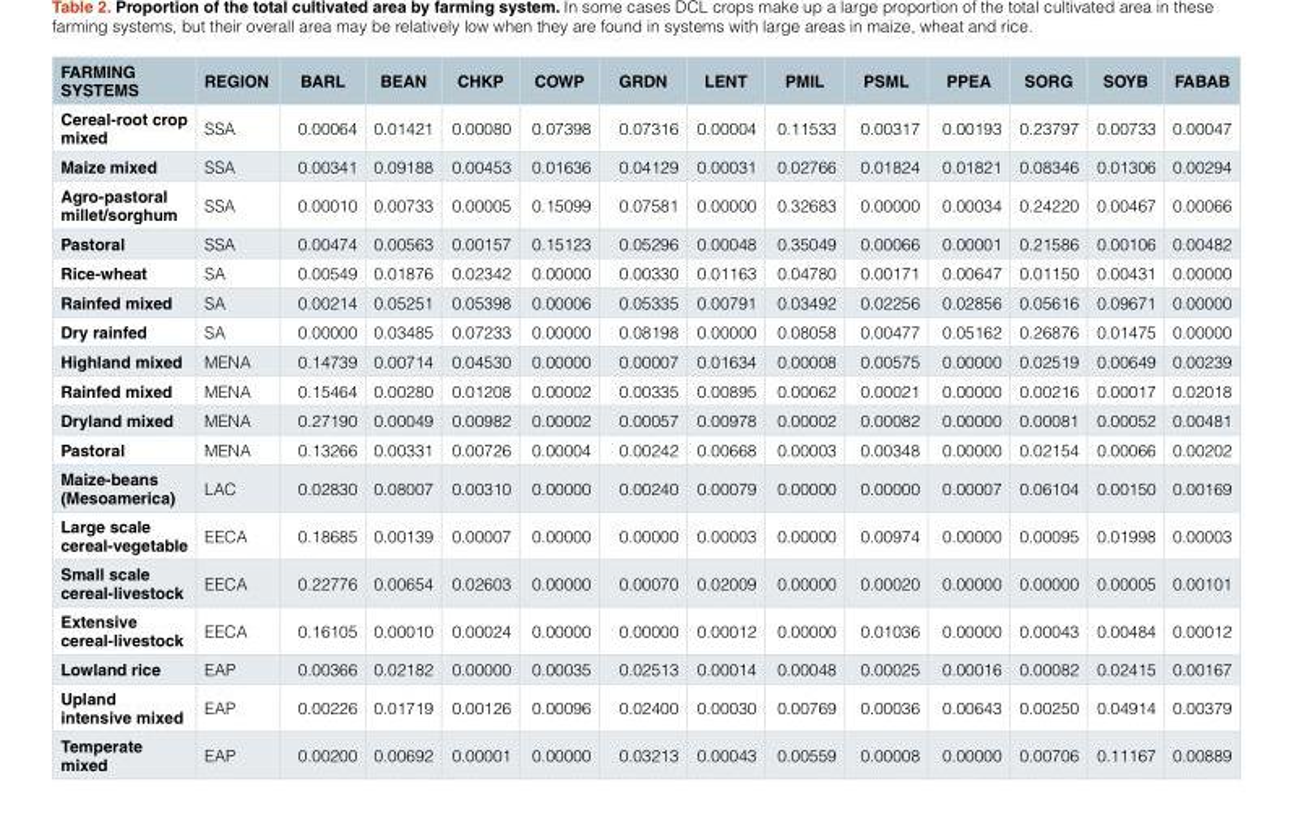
<table><thead><tr><td>FARMING SYSTEMS</td><td>REGION</td><td>BARL</td><td>BEAN</td><td>CHKP</td><td>COWP</td><td>GRDN</td><td>LENT</td><td>PMIL</td><td>PSML</td><td>PPEA</td><td>SORG</td><td>SOYB</td><td>FABAB</td></tr></thead><tbody><tr><td>Cereal-root crop mixed</td><td>SSA</td><td>0.00064</td><td>0.01421</td><td>0.00080</td><td>0.07398</td><td>0.07316</td><td>0.00004</td><td>0.11533</td><td>0.00317</td><td>0.00193</td><td>0.23797</td><td>0.00733</td><td>0.00047</td></tr><tr><td>Maize mixed</td><td>SSA</td><td>0.00341</td><td>0.09188</td><td>0.00453</td><td>0.01636</td><td>0.04129</td><td>0.00031</td><td>0.02766</td><td>0.01824</td><td>0.01821</td><td>0.08346</td><td>0.01306</td><td>0.00294</td></tr><tr><td>Agro-pastoral millet/sorghum</td><td>SSA</td><td>0.00010</td><td>0.00733</td><td>0.00005</td><td>0.15099</td><td>0.07581</td><td>0.00000</td><td>0.32683</td><td>0.00000</td><td>0.00034</td><td>0.24220</td><td>0.00467</td><td>0.00066</td></tr><tr><td>Pastoral</td><td>SSA</td><td>0.00474</td><td>0.00563</td><td>0.00157</td><td>0.15123</td><td>0.05296</td><td>0.00048</td><td>0.35049</td><td>0.00066</td><td>0.00001</td><td>0.21586</td><td>0.00106</td><td>0.00482</td></tr><tr><td>Rice-wheat</td><td>SA</td><td>0.00549</td><td>0.01876</td><td>0.02342</td><td>0.00000</td><td>0.00330</td><td>0.01163</td><td>0.04780</td><td>0.00171</td><td>0.00647</td><td>0.01150</td><td>0.00431</td><td>0.00000</td></tr><tr><td>Rainfed mixed</td><td>SA</td><td>0.00214</td><td>0.05251</td><td>0.05398</td><td>0.00006</td><td>0.05335</td><td>0.00791</td><td>0.03492</td><td>0.02256</td><td>0.02856</td><td>0.05616</td><td>0.09671</td><td>0.00000</td></tr><tr><td>Dry rainfed</td><td>SA</td><td>0.00000</td><td>0.03485</td><td>0.07233</td><td>0.00000</td><td>0.08198</td><td>0.00000</td><td>0.08058</td><td>0.00477</td><td>0.05162</td><td>0.26876</td><td>0.01475</td><td>0.00000</td></tr><tr><td>Highland mixed</td><td>MENA</td><td>0.14739</td><td>0.00714</td><td>0.04530</td><td>0.00000</td><td>0.00007</td><td>0.01634</td><td>0.00008</td><td>0.00575</td><td>0.00000</td><td>0.02519</td><td>0.00649</td><td>0.00239</td></tr><tr><td>Rainfed mixed</td><td>MENA</td><td>0.15464</td><td>0.00280</td><td>0.01208</td><td>0.00002</td><td>0.00335</td><td>0.00895</td><td>0.00062</td><td>0.00021</td><td>0.00000</td><td>0.00216</td><td>0.00017</td><td>0.02018</td></tr><tr><td>Dryland mixed</td><td>MENA</td><td>0.27190</td><td>0.00049</td><td>0.00982</td><td>0.00002</td><td>0.00057</td><td>0.00978</td><td>0.00002</td><td>0.00082</td><td>0.00000</td><td>0.00081</td><td>0.00052</td><td>0.00481</td></tr><tr><td>Pastoral</td><td>MENA</td><td>0.13266</td><td>0.00331</td><td>0.00726</td><td>0.00004</td><td>0.00242</td><td>0.00668</td><td>0.00003</td><td>0.00348</td><td>0.00000</td><td>0.02154</td><td>0.00066</td><td>0.00202</td></tr><tr><td>Maize-beans (Mesoamerica)</td><td>LAC</td><td>0.02830</td><td>0.08007</td><td>0.00310</td><td>0.00000</td><td>0.00240</td><td>0.00079</td><td>0.00000</td><td>0.00000</td><td>0.00007</td><td>0.06104</td><td>0.00150</td><td>0.00169</td></tr><tr><td>Large scale cereal-vegetable</td><td>EECA</td><td>0.18685</td><td>0.00139</td><td>0.00007</td><td>0.00000</td><td>0.00000</td><td>0.00003</td><td>0.00000</td><td>0.00974</td><td>0.00000</td><td>0.00095</td><td>0.01998</td><td>0.00003</td></tr><tr><td>Small scale cereal-livestock</td><td>EECA</td><td>0.22776</td><td>0.00654</td><td>0.02603</td><td>0.00000</td><td>0.00070</td><td>0.02009</td><td>0.00000</td><td>0.00020</td><td>0.00000</td><td>0.00000</td><td>0.00005</td><td>0.00101</td></tr><tr><td>Extensive cereal-livestock</td><td>EECA</td><td>0.16105</td><td>0.00010</td><td>0.00024</td><td>0.00000</td><td>0.00000</td><td>0.00012</td><td>0.00000</td><td>0.01036</td><td>0.00000</td><td>0.00043</td><td>0.00484</td><td>0.00012</td></tr><tr><td>Lowland rice</td><td>EAP</td><td>0.00366</td><td>0.02182</td><td>0.00000</td><td>0.00035</td><td>0.02513</td><td>0.00014</td><td>0.00048</td><td>0.00025</td><td>0.00016</td><td>0.00082</td><td>0.02415</td><td>0.00167</td></tr><tr><td>Upland intensive mixed</td><td>EAP</td><td>0.00226</td><td>0.01719</td><td>0.00126</td><td>0.00096</td><td>0.02400</td><td>0.00030</td><td>0.00769</td><td>0.00036</td><td>0.00643</td><td>0.00250</td><td>0.04914</td><td>0.00379</td></tr><tr><td>Temperate mixed</td><td>EAP</td><td>0.00200</td><td>0.00692</td><td>0.00001</td><td>0.00000</td><td>0.03213</td><td>0.00043</td><td>0.00559</td><td>0.00008</td><td>0.00000</td><td>0.00706</td><td>0.11167</td><td>0.00889</td></tr></tbody></table>